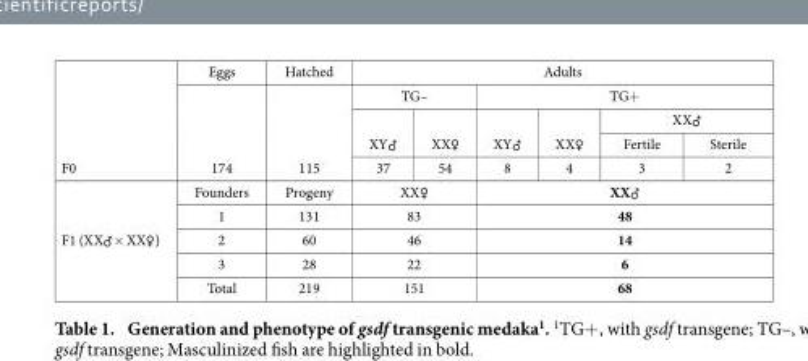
<table><thead><tr><td rowspan="5">F0</td><td rowspan="5">Eggs 174</td><td rowspan="5">Hatched 115</td><td colspan="6">Adults</td></tr><tr><td colspan="2">TG–</td><td colspan="4">TG+</td></tr><tr><td rowspan="3">XY♂ 37</td><td rowspan="3">XX♀ 54</td><td rowspan="3">XY♂ 8</td><td rowspan="3">XX♀ 4</td><td colspan="2">XX♂</td></tr><tr><td rowspan="2">Fertile 3</td><td rowspan="2">Sterile 2</td></tr><tr></tr></thead><tbody><tr><td rowspan="5">F1 (XX♂ × XX♀ )</td><td>Founders</td><td>Progeny</td><td colspan="2">XX♀</td><td colspan="4">XX♂</td></tr><tr><td>1</td><td>131</td><td colspan="2">83</td><td colspan="4">48</td></tr><tr><td>2</td><td>60</td><td colspan="2">46</td><td colspan="4">14</td></tr><tr><td>3</td><td>28</td><td colspan="2">22</td><td colspan="4">6</td></tr><tr><td>Total</td><td>219</td><td colspan="2">151</td><td colspan="4">68</td></tr></tbody></table>